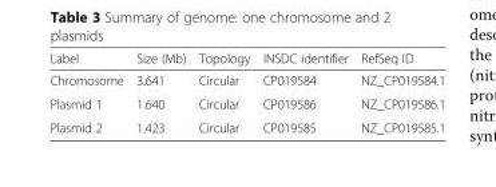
<table><thead><tr><td>Label</td><td>Size (Mb)</td><td>Topology</td><td>INSDC identifier</td><td>RefSeq ID</td></tr></thead><tbody><tr><td>Chromosome</td><td>3.641</td><td>Circular</td><td>CP019584</td><td>NZ_CP019584.1</td></tr><tr><td>Plasmid 1</td><td>1.640</td><td>Circular</td><td>CP019586</td><td>NZ_CP019586.1</td></tr><tr><td>Plasmid 2</td><td>1.423</td><td>Circular</td><td>CP019585</td><td>NZ_CP019585.1</td></tr></tbody></table>